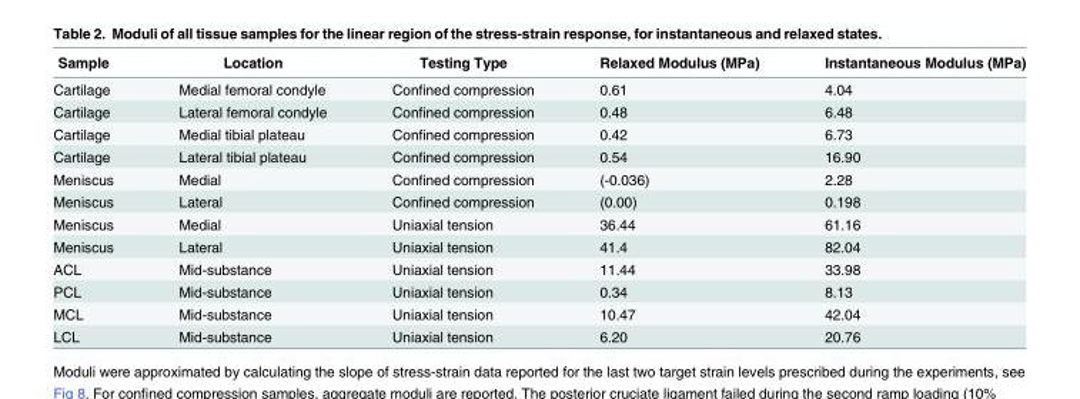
<table><thead><tr><td>Sample</td><td>Location</td><td>Testing Type</td><td>Relaxed Modulus (MPa)</td><td>Instantaneous Modulus (MPa)</td></tr></thead><tbody><tr><td>Cartilage</td><td>Medial femoral condyle</td><td>Confined compression</td><td>0.61</td><td>4.04</td></tr><tr><td>Cartilage</td><td>Lateral femoral condyle</td><td>Confined compression</td><td>0.48</td><td>6.48</td></tr><tr><td>Cartilage</td><td>Medial tibial plateau</td><td>Confined compression</td><td>0.42</td><td>6.73</td></tr><tr><td>Cartilage</td><td>Lateral tibial plateau</td><td>Confined compression</td><td>0.54</td><td>16.90</td></tr><tr><td>Meniscus</td><td>Medial</td><td>Confined compression</td><td>(-0.036)</td><td>2.28</td></tr><tr><td>Meniscus</td><td>Lateral</td><td>Confined compression</td><td>(0.00)</td><td>0.198</td></tr><tr><td>Meniscus</td><td>Medial</td><td>Uniaxial tension</td><td>36.44</td><td>61.16</td></tr><tr><td>Meniscus</td><td>Lateral</td><td>Uniaxial tension</td><td>41.4</td><td>82.04</td></tr><tr><td>ACL</td><td>Mid-substance</td><td>Uniaxial tension</td><td>11.44</td><td>33.98</td></tr><tr><td>PCL</td><td>Mid-substance</td><td>Uniaxial tension</td><td>0.34</td><td>8.13</td></tr><tr><td>MCL</td><td>Mid-substance</td><td>Uniaxial tension</td><td>10.47</td><td>42.04</td></tr><tr><td>LCL</td><td>Mid-substance</td><td>Uniaxial tension</td><td>6.20</td><td>20.76</td></tr></tbody></table>